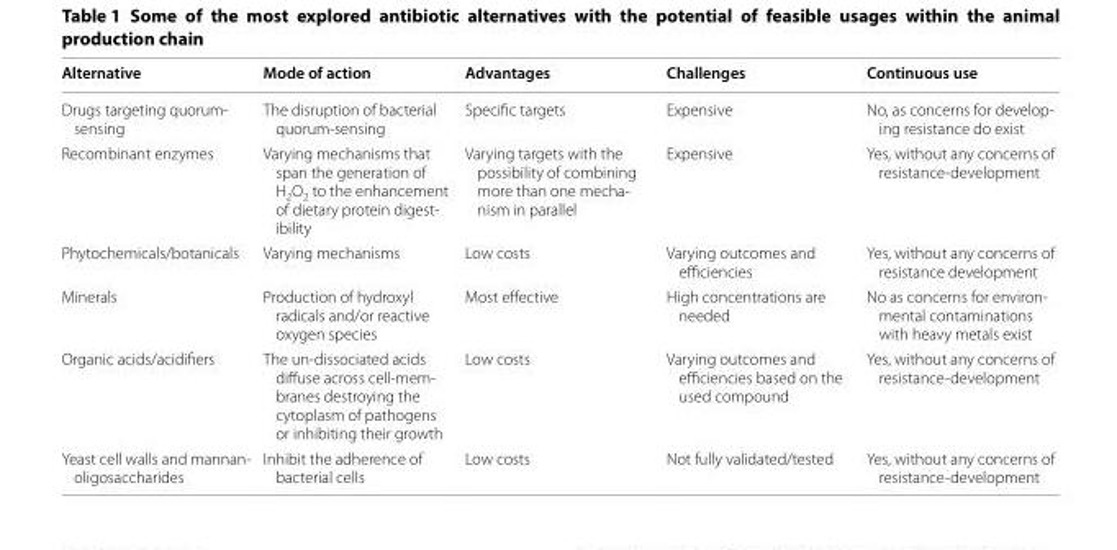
<table><thead><tr><td>Alternative</td><td>Mode of action</td><td>Advantages</td><td>Challenges</td><td>Continuous use</td></tr></thead><tbody><tr><td>Drugs targeting quorum- sensing</td><td>The disruption of bacterial quorum-sensing</td><td>Specific targets</td><td>Expensive</td><td>No, as concerns for develop- ing resistance do exist</td></tr><tr><td>Recombinant enzymes</td><td>Varying mechanisms that span the generation of H2O2 to the enhancement of dietary protein digest- ibility</td><td>Varying targets with the possibility of combining more than one mecha- nism in parallel</td><td>Expensive</td><td>Yes, without any concerns of resistance-development</td></tr><tr><td>Phytochemicals/botanicals</td><td>Varying mechanisms</td><td>Low costs</td><td>Varying outcomes and efficiencies</td><td>Yes, without any concerns of resistance development</td></tr><tr><td>Minerals</td><td>Production of hydroxyl radicals and/or reactive oxygen species</td><td>Most effective</td><td>High concentrations are needed</td><td>No as concerns for environ- mental contaminations with heavy metals exist</td></tr><tr><td>Organic acids/acidifiers</td><td>The un-dissociated acids diffuse across cell-mem- branes destroying the cytoplasm of pathogens or inhibiting their growth</td><td>Low costs</td><td>Varying outcomes and efficiencies based on the used compound</td><td>Yes, without any concerns of resistance-development</td></tr><tr><td>Yeast cell walls and mannan- oligosaccharides</td><td>Inhibit the adherence of bacterial cells</td><td>Low costs</td><td>Not fully validated/tested</td><td>Yes, without any concerns of resistance-development</td></tr></tbody></table>